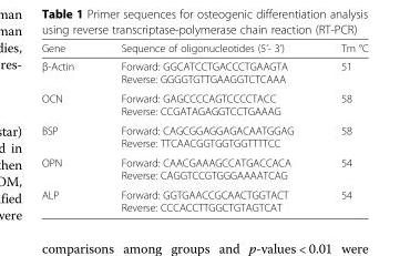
<table><thead><tr><td>Gene</td><td>Sequence of oligonucleotides (5’- 3’)</td><td>Tm °C</td></tr></thead><tbody><tr><td>β-Actin</td><td>Forward: GGCATCCTGACCCTGAAGTA Reverse: GGGGTGTTGAAGGTCTCAAA</td><td>51</td></tr><tr><td>OCN</td><td>Forward: GAGCCCCAGTCCCCTACC Reverse: CCGATAGAGGTCCTGAAAG</td><td>58</td></tr><tr><td>BSP</td><td>Forward: CAGCGGAGGAGACAATGGAG Reverse: TTCAACGGTGGTGGTTTTCC</td><td>58</td></tr><tr><td>OPN</td><td>Forward: CAACGAAAGCCATGACCACA Reverse: CAGGTCCGTGGGAAAATCAG</td><td>54</td></tr><tr><td>ALP</td><td>Forward: GGTGAACCGCAACTGGTACT Reverse: CCCACCTTGGCTGTAGTCAT</td><td>54</td></tr></tbody></table>